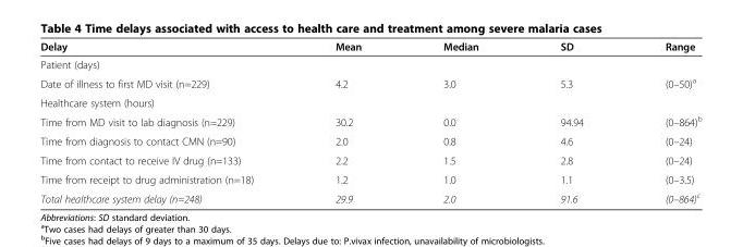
<table><thead><tr><td>Delay</td><td>Mean</td><td>Median</td><td>SD</td><td>Range</td></tr></thead><tbody><tr><td colspan="5">Patient (days)</td></tr><tr><td>Date of illness to first MD visit (n=229)</td><td>4.2</td><td>3.0</td><td>5.3</td><td>(0–50)<sup>a</sup></td></tr><tr><td colspan="5">Healthcare system (hours)</td></tr><tr><td>Time from MD visit to lab diagnosis (n=229)</td><td>30.2</td><td>0.0</td><td>94.94</td><td>(0–864)<sup>b</sup></td></tr><tr><td>Time from diagnosis to contact CMN (n=90)</td><td>2.0</td><td>0.8</td><td>4.6</td><td>(0–24)</td></tr><tr><td>Time from contact to receive IV drug (n=133)</td><td>2.2</td><td>1.5</td><td>2.8</td><td>(0–24)</td></tr><tr><td>Time from receipt to drug administration (n=18)</td><td>1.2</td><td>1.0</td><td>1.1</td><td>(0–3.5)</td></tr><tr><td>Total healthcare system delay (n=248)</td><td>29.9</td><td>2.0</td><td>91.6</td><td>(0–864)<sup>c</sup></td></tr></tbody></table>